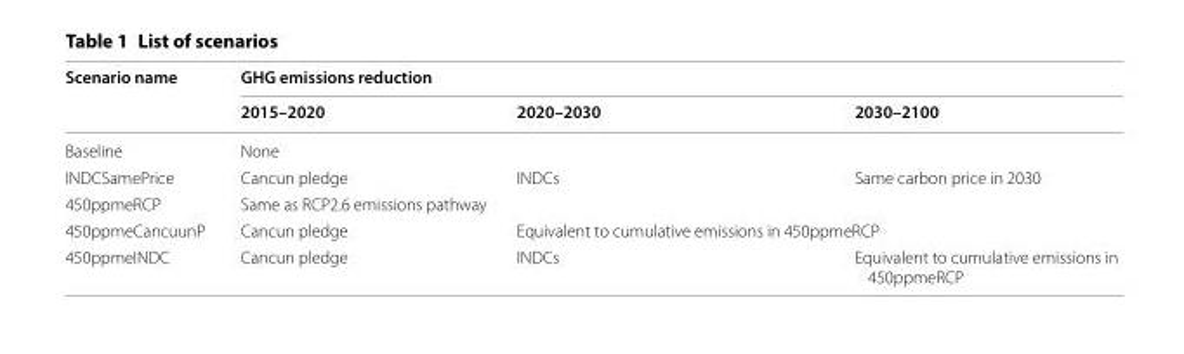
<table><thead><tr><td rowspan="2">Scenario name</td><td colspan="3">GHG emissions reduction</td></tr><tr><td>2015–2020</td><td>2020–2030</td><td>2030–2100</td></tr></thead><tbody><tr><td>Baseline</td><td colspan="3">None</td></tr><tr><td>INDCSamePrice</td><td>Cancun pledge</td><td>INDCs</td><td>Same carbon price in 2030</td></tr><tr><td>450ppmeRCP</td><td colspan="3">Same as RCP2.6 emissions pathway</td></tr><tr><td>450ppmeCancuunP</td><td>Cancun pledge</td><td colspan="2">Equivalent to cumulative emissions in 450ppmeRCP</td></tr><tr><td>450ppmeINDC</td><td>Cancun pledge</td><td>INDCs</td><td>Equivalent to cumulative emissions in 450ppmeRCP</td></tr></tbody></table>